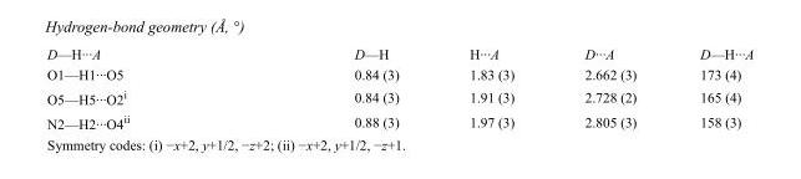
<table><tbody><tr><td>D—H···A</td><td>D—H</td><td>H···A</td><td>D···A</td><td>D—H···A</td></tr><tr><td>O1—H1···O5</td><td>0.84 (3)</td><td>1.83 (3)</td><td>2.662 (3)</td><td>173 (4)</td></tr><tr><td>O5—H5···O2<sup>i</sup></td><td>0.84 (3)</td><td>1.91 (3)</td><td>2.728 (2)</td><td>165 (4)</td></tr><tr><td>N2—H2···O4<sup>ii</sup></td><td>0.88 (3)</td><td>1.97 (3)</td><td>2.805 (3)</td><td>158 (3)</td></tr></tbody></table>